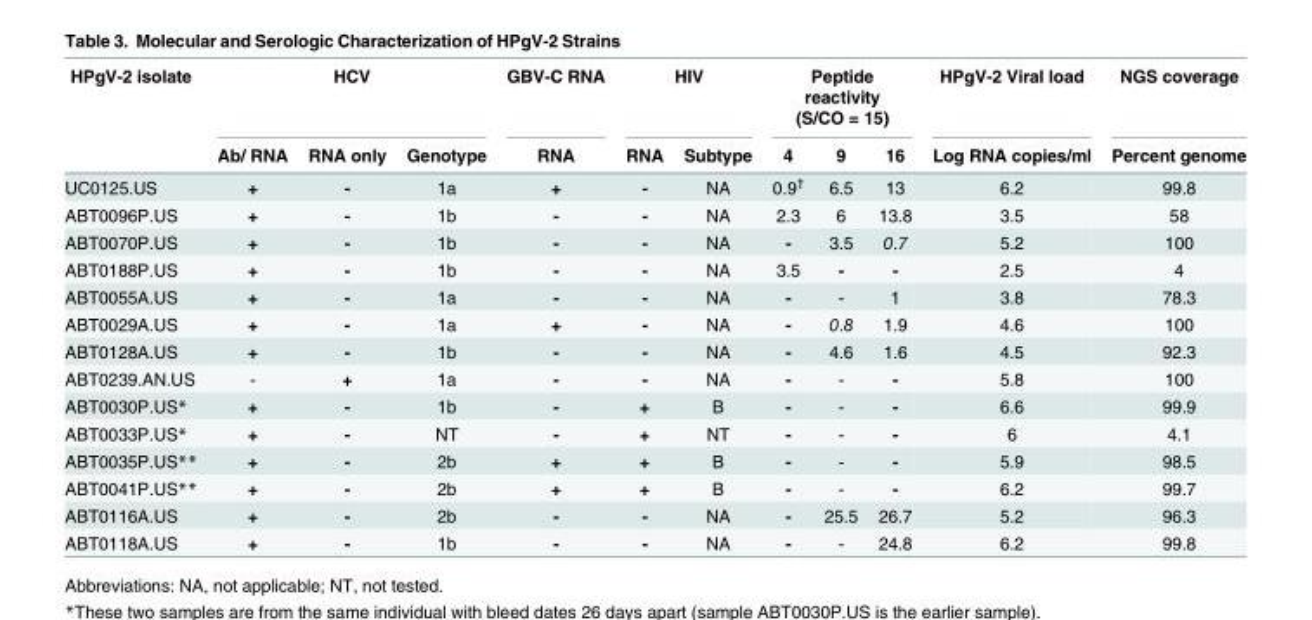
<table><thead><tr><td rowspan="2">HPgV-2 isolate</td><td colspan="3">HCV</td><td rowspan="2">GBV-C RNA RNA</td><td colspan="2">HIV</td><td colspan="3">Peptide reactivity (S/CO = 15)</td><td rowspan="2">HPgV-2 Viral load Log RNA copies/ml</td><td rowspan="2">NGS coverage Percent genome</td></tr><tr><td>Ab/ RNA</td><td>RNA only</td><td>Genotype</td><td>RNA</td><td>Subtype</td><td>4</td><td>9</td><td>16</td></tr></thead><tbody><tr><td>UC0125.US</td><td>+</td><td>-</td><td>1a</td><td>+</td><td>-</td><td>NA</td><td>0.9<sup>†</sup></td><td>6.5</td><td>13</td><td>6.2</td><td>99.8</td></tr><tr><td>ABT0096P.US</td><td>+</td><td>-</td><td>1b</td><td>-</td><td>-</td><td>NA</td><td>2.3</td><td>6</td><td>13.8</td><td>3.5</td><td>58</td></tr><tr><td>ABT0070P.US</td><td>+</td><td>-</td><td>1b</td><td>-</td><td>-</td><td>NA</td><td>-</td><td>3.5</td><td>0.7</td><td>5.2</td><td>100</td></tr><tr><td>ABT0188P.US</td><td>+</td><td>-</td><td>1b</td><td>-</td><td>-</td><td>NA</td><td>3.5</td><td>-</td><td>-</td><td>2.5</td><td>4</td></tr><tr><td>ABT0055A.US</td><td>+</td><td>-</td><td>1a</td><td>-</td><td>-</td><td>NA</td><td>-</td><td>-</td><td>1</td><td>3.8</td><td>78.3</td></tr><tr><td>ABT0029A.US</td><td>+</td><td>-</td><td>1a</td><td>+</td><td>-</td><td>NA</td><td>-</td><td>0.8</td><td>1.9</td><td>4.6</td><td>100</td></tr><tr><td>ABT0128A.US</td><td>+</td><td>-</td><td>1b</td><td>-</td><td>-</td><td>NA</td><td>-</td><td>4.6</td><td>1.6</td><td>4.5</td><td>92.3</td></tr><tr><td>ABT0239.AN.US</td><td>-</td><td>+</td><td>1a</td><td>-</td><td>-</td><td>NA</td><td>-</td><td>-</td><td>-</td><td>5.8</td><td>100</td></tr><tr><td>ABT0030P.US*</td><td>+</td><td>-</td><td>1b</td><td>-</td><td>+</td><td>B</td><td>-</td><td>-</td><td>-</td><td>6.6</td><td>99.9</td></tr><tr><td>ABT0033P.US*</td><td>+</td><td>-</td><td>NT</td><td>-</td><td>+</td><td>NT</td><td>-</td><td>-</td><td>-</td><td>6</td><td>4.1</td></tr><tr><td>ABT0035P.US**</td><td>+</td><td>-</td><td>2b</td><td>+</td><td>+</td><td>B</td><td>-</td><td>-</td><td>-</td><td>5.9</td><td>98.5</td></tr><tr><td>ABT0041P.US**</td><td>+</td><td>-</td><td>2b</td><td>+</td><td>+</td><td>B</td><td>-</td><td>-</td><td>-</td><td>6.2</td><td>99.7</td></tr><tr><td>ABT0116A.US</td><td>+</td><td>-</td><td>2b</td><td>-</td><td>-</td><td>NA</td><td>-</td><td>25.5</td><td>26.7</td><td>5.2</td><td>96.3</td></tr><tr><td>ABT0118A.US</td><td>+</td><td>-</td><td>1b</td><td>-</td><td>-</td><td>NA</td><td>-</td><td>-</td><td>24.8</td><td>6.2</td><td>99.8</td></tr></tbody></table>